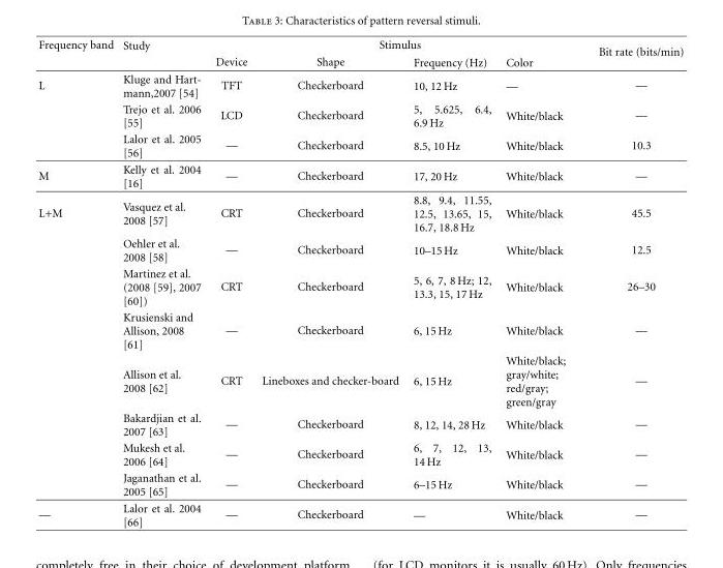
<table><thead><tr><td rowspan="2">Frequency band</td><td rowspan="2">Study</td><td colspan="4">Stimulus</td><td rowspan="2">Bit rate (bits/min)</td></tr><tr><td>Device</td><td>Shape</td><td>Frequency (Hz)</td><td>Color</td></tr></thead><tbody><tr><td rowspan="3">L</td><td>Kluge and Hart- mann,2007 [54]</td><td>TFT</td><td>Checkerboard</td><td>10, 12 Hz</td><td>—</td><td>—</td></tr><tr><td>Trejo et al. 2006 [55]</td><td>LCD</td><td>Checkerboard</td><td>5, 5.625, 6.4, 6.9 Hz</td><td>White/black</td><td>—</td></tr><tr><td>Lalor et al. 2005 [56]</td><td>—</td><td>Checkerboard</td><td>8.5, 10 Hz</td><td>White/black</td><td>10.3</td></tr><tr><td>M</td><td>Kelly et al. 2004 [16]</td><td>—</td><td>Checkerboard</td><td>17, 20 Hz</td><td>White/black</td><td>—</td></tr><tr><td rowspan="8">L+M</td><td>Vasquez et al. 2008 [57]</td><td>CRT</td><td>Checkerboard</td><td>8.8, 9.4, 11.55, 12.5, 13.65, 15, 16.7, 18.8 Hz</td><td>White/black</td><td>45.5</td></tr><tr><td>Oehler et al. 2008 [58]</td><td>—</td><td>Checkerboard</td><td>10–15 Hz</td><td>White/black</td><td>12.5</td></tr><tr><td>Martinez et al. (2008 [59], 2007 [60])</td><td>CRT</td><td>Checkerboard</td><td>5, 6, 7, 8 Hz; 12, 13.3, 15, 17 Hz</td><td>White/black</td><td>26–30</td></tr><tr><td>Krusienski and Allison, 2008 [61]</td><td>—</td><td>Checkerboard</td><td>6, 15 Hz</td><td>White/black</td><td>—</td></tr><tr><td>Allison et al. 2008 [62]</td><td>CRT</td><td>Lineboxes and checker-board</td><td>6, 15 Hz</td><td>White/black; gray/white; red/gray; green/gray</td><td>—</td></tr><tr><td>Bakardjian et al. 2007 [63]</td><td>—</td><td>Checkerboard</td><td>8, 12, 14, 28 Hz</td><td>White/black</td><td>—</td></tr><tr><td>Mukesh et al. 2006 [64]</td><td>—</td><td>Checkerboard</td><td>6, 7, 12, 13, 14 Hz</td><td>White/black</td><td>—</td></tr><tr><td>Jaganathan et al. 2005 [65]</td><td>—</td><td>Checkerboard</td><td>6–15 Hz</td><td>White/black</td><td>—</td></tr><tr><td>—</td><td>Lalor et al. 2004 [66]</td><td>—</td><td>Checkerboard</td><td>—</td><td>White/black</td><td>—</td></tr></tbody></table>